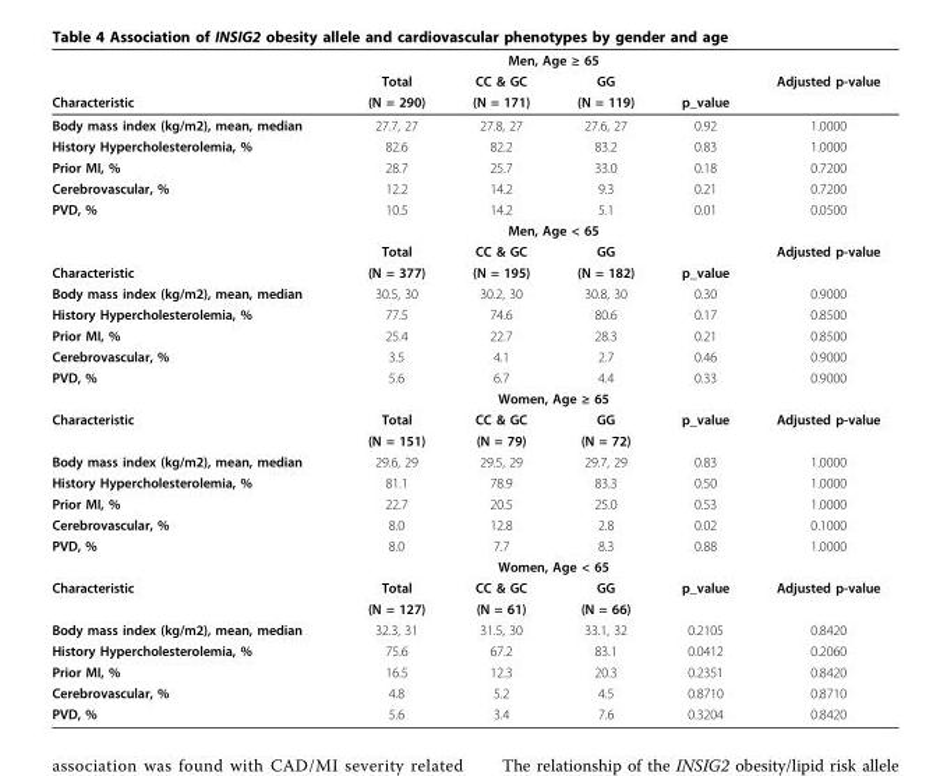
<table><thead><tr><td rowspan="3">Characteristic</td><td rowspan="3">Total (N = 290)</td><td colspan="2">Men, Age ≥ 65</td><td rowspan="3">p_value</td><td rowspan="3">Adjusted p-value</td></tr><tr><td rowspan="2">CC &amp; GC (N = 171)</td><td rowspan="2">GG (N = 119)</td></tr><tr></tr></thead><tbody><tr><td>Body mass index (kg/m2), mean, median</td><td>27.7, 27</td><td>27.8, 27</td><td>27.6, 27</td><td>0.92</td><td>1.0000</td></tr><tr><td>History Hypercholesterolemia, %</td><td>82.6</td><td>82.2</td><td>83.2</td><td>0.83</td><td>1.0000</td></tr><tr><td>Prior MI, %</td><td>28.7</td><td>25.7</td><td>33.0</td><td>0.18</td><td>0.7200</td></tr><tr><td>Cerebrovascular, %</td><td>12.2</td><td>14.2</td><td>9.3</td><td>0.21</td><td>0.7200</td></tr><tr><td rowspan="3">PVD, %</td><td>10.5</td><td>14.2</td><td>5.1</td><td>0.01</td><td>0.0500</td></tr><tr><td></td><td colspan="2">Men, Age &lt; 65</td><td></td><td></td></tr><tr><td>Total</td><td>CC &amp; GC</td><td>GG</td><td></td><td>Adjusted p-value</td></tr><tr><td>Characteristic</td><td>(N = 377)</td><td>(N = 195)</td><td>(N = 182)</td><td>p_value</td><td></td></tr><tr><td>Body mass index (kg/m2), mean, median</td><td>30.5, 30</td><td>30.2, 30</td><td>30.8, 30</td><td>0.30</td><td>0.9000</td></tr><tr><td>History Hypercholesterolemia, %</td><td>77.5</td><td>74.6</td><td>80.6</td><td>0.17</td><td>0.8500</td></tr><tr><td>Prior MI, %</td><td>25.4</td><td>22.7</td><td>28.3</td><td>0.21</td><td>0.8500</td></tr><tr><td>Cerebrovascular, %</td><td>3.5</td><td>4.1</td><td>2.7</td><td>0.46</td><td>0.9000</td></tr><tr><td rowspan="2">PVD, %</td><td>5.6</td><td>6.7</td><td>4.4</td><td>0.33</td><td>0.9000</td></tr><tr><td></td><td colspan="2">Women, Age ≥ 65</td><td></td><td></td></tr><tr><td rowspan="2">Characteristic</td><td>Total</td><td>CC &amp; GC</td><td>GG</td><td>p_value</td><td>Adjusted p-value</td></tr><tr><td>(N = 151)</td><td>(N = 79)</td><td>(N = 72)</td><td></td><td></td></tr><tr><td>Body mass index (kg/m2), mean, median</td><td>29.6, 29</td><td>29.5, 29</td><td>29.7, 29</td><td>0.83</td><td>1.0000</td></tr><tr><td>History Hypercholesterolemia, %</td><td>81.1</td><td>78.9</td><td>83.3</td><td>0.50</td><td>1.0000</td></tr><tr><td>Prior MI, %</td><td>22.7</td><td>20.5</td><td>25.0</td><td>0.53</td><td>1.0000</td></tr><tr><td>Cerebrovascular, %</td><td>8.0</td><td>12.8</td><td>2.8</td><td>0.02</td><td>0.1000</td></tr><tr><td rowspan="2">PVD, %</td><td>8.0</td><td>7.7</td><td>8.3</td><td>0.88</td><td>1.0000</td></tr><tr><td></td><td colspan="2">Women, Age &lt; 65</td><td></td><td></td></tr><tr><td rowspan="2">Characteristic</td><td>Total</td><td>CC &amp; GC</td><td>GG</td><td>p_value</td><td>Adjusted p-value</td></tr><tr><td>(N = 127)</td><td>(N = 61)</td><td>(N = 66)</td><td></td><td></td></tr><tr><td>Body mass index (kg/m2), mean, median</td><td>32.3, 31</td><td>31.5, 30</td><td>33.1, 32</td><td>0.2105</td><td>0.8420</td></tr><tr><td>History Hypercholesterolemia, %</td><td>75.6</td><td>67.2</td><td>83.1</td><td>0.0412</td><td>0.2060</td></tr><tr><td>Prior MI, %</td><td>16.5</td><td>12.3</td><td>20.3</td><td>0.2351</td><td>0.8420</td></tr><tr><td>Cerebrovascular, %</td><td>4.8</td><td>5.2</td><td>4.5</td><td>0.8710</td><td>0.8710</td></tr><tr><td>PVD, %</td><td>5.6</td><td>3.4</td><td>7.6</td><td>0.3204</td><td>0.8420</td></tr></tbody></table>